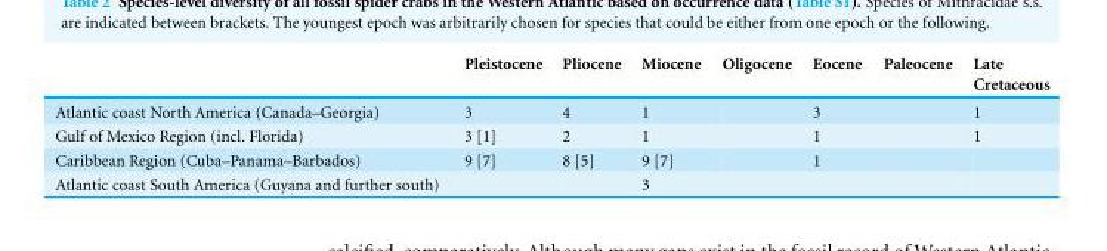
<table><thead><tr><td></td><td>Pleistocene</td><td>Pliocene</td><td>Miocene</td><td>Oligocene</td><td>Eocene</td><td>Paleocene</td><td>Late Cretaceous</td></tr></thead><tbody><tr><td>Atlantic coast North America (Canada–Georgia)</td><td>3</td><td>4</td><td>1</td><td></td><td>3</td><td></td><td>1</td></tr><tr><td>Gulf of Mexico Region (incl. Florida)</td><td>3 [1]</td><td>2</td><td>1</td><td></td><td>1</td><td></td><td>1</td></tr><tr><td>Caribbean Region (Cuba–Panama–Barbados)</td><td>9 [7]</td><td>8 [5]</td><td>9 [7]</td><td></td><td>1</td><td></td><td></td></tr><tr><td>Atlantic coast South America (Guyana and further south)</td><td></td><td></td><td>3</td><td></td><td></td><td></td><td></td></tr></tbody></table>